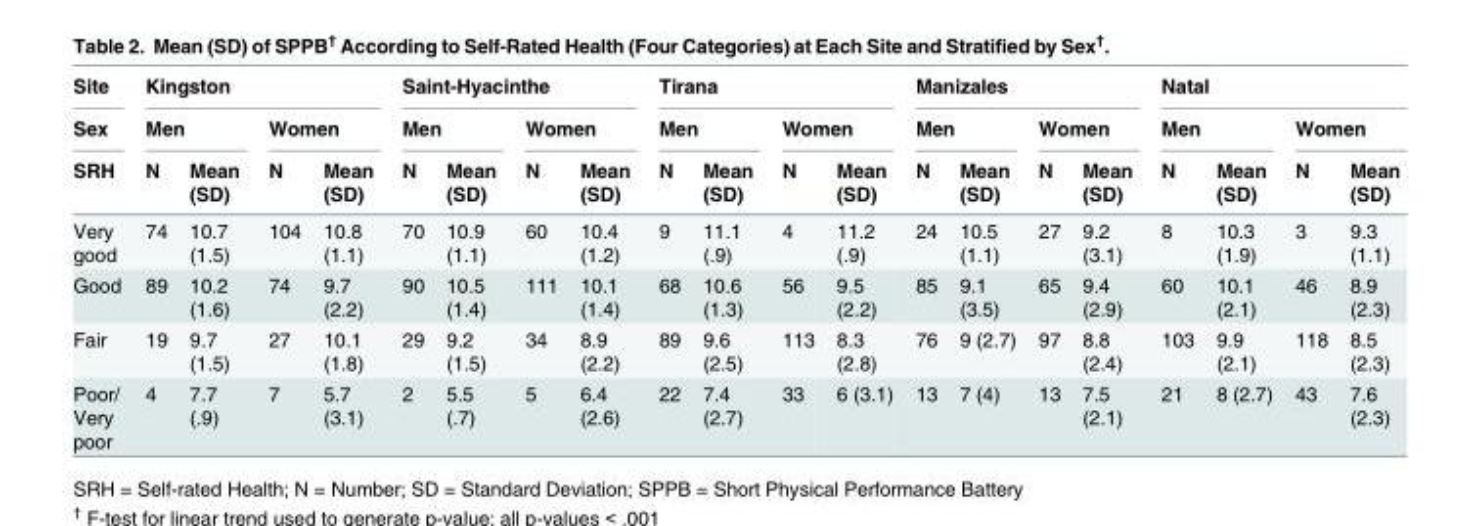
<table><thead><tr><td rowspan="3">Site Sex SRH</td><td colspan="4">Kingston</td><td colspan="4">Saint-Hyacinthe</td><td colspan="4">Tirana</td><td colspan="4">Manizales</td><td colspan="4">Natal</td></tr><tr><td colspan="2">Men</td><td colspan="2">Women</td><td colspan="2">Men</td><td colspan="2">Women</td><td colspan="2">Men</td><td colspan="2">Women</td><td colspan="2">Men</td><td colspan="2">Women</td><td colspan="2">Men</td><td colspan="2">Women</td></tr><tr><td>N</td><td>Mean (SD)</td><td>N</td><td>Mean (SD)</td><td>N</td><td>Mean (SD)</td><td>N</td><td>Mean (SD)</td><td>N</td><td>Mean (SD)</td><td>N</td><td>Mean (SD)</td><td>N</td><td>Mean (SD)</td><td>N</td><td>Mean (SD)</td><td>N</td><td>Mean (SD)</td><td>N</td><td>Mean (SD)</td></tr></thead><tbody><tr><td>Very good</td><td>74</td><td>10.7 (1.5)</td><td>104</td><td>10.8 (1.1)</td><td>70</td><td>10.9 (1.1)</td><td>60</td><td>10.4 (1.2)</td><td>9</td><td>11.1 (.9)</td><td>4</td><td>11.2 (.9)</td><td>24</td><td>10.5 (1.1)</td><td>27</td><td>9.2 (3.1)</td><td>8</td><td>10.3 (1.9)</td><td>3</td><td>9.3 (1.1)</td></tr><tr><td>Good</td><td>89</td><td>10.2 (1.6)</td><td>74</td><td>9.7 (2.2)</td><td>90</td><td>10.5 (1.4)</td><td>111</td><td>10.1 (1.4)</td><td>68</td><td>10.6 (1.3)</td><td>56</td><td>9.5 (2.2)</td><td>85</td><td>9.1 (3.5)</td><td>65</td><td>9.4 (2.9)</td><td>60</td><td>10.1 (2.1)</td><td>46</td><td>8.9 (2.3)</td></tr><tr><td>Fair</td><td>19</td><td>9.7 (1.5)</td><td>27</td><td>10.1 (1.8)</td><td>29</td><td>9.2 (1.5)</td><td>34</td><td>8.9 (2.2)</td><td>89</td><td>9.6 (2.5)</td><td>113</td><td>8.3 (2.8)</td><td>76</td><td>9 (2.7)</td><td>97</td><td>8.8 (2.4)</td><td>103</td><td>9.9 (2.1)</td><td>118</td><td>8.5 (2.3)</td></tr><tr><td>Poor/ Very poor</td><td>4</td><td>7.7 (.9)</td><td>7</td><td>5.7 (3.1)</td><td>2</td><td>5.5 (.7)</td><td>5</td><td>6.4 (2.6)</td><td>22</td><td>7.4 (2.7)</td><td>33</td><td>6 (3.1)</td><td>13</td><td>7 (4)</td><td>13</td><td>7.5 (2.1)</td><td>21</td><td>8 (2.7)</td><td>43</td><td>7.6 (2.3)</td></tr></tbody></table>